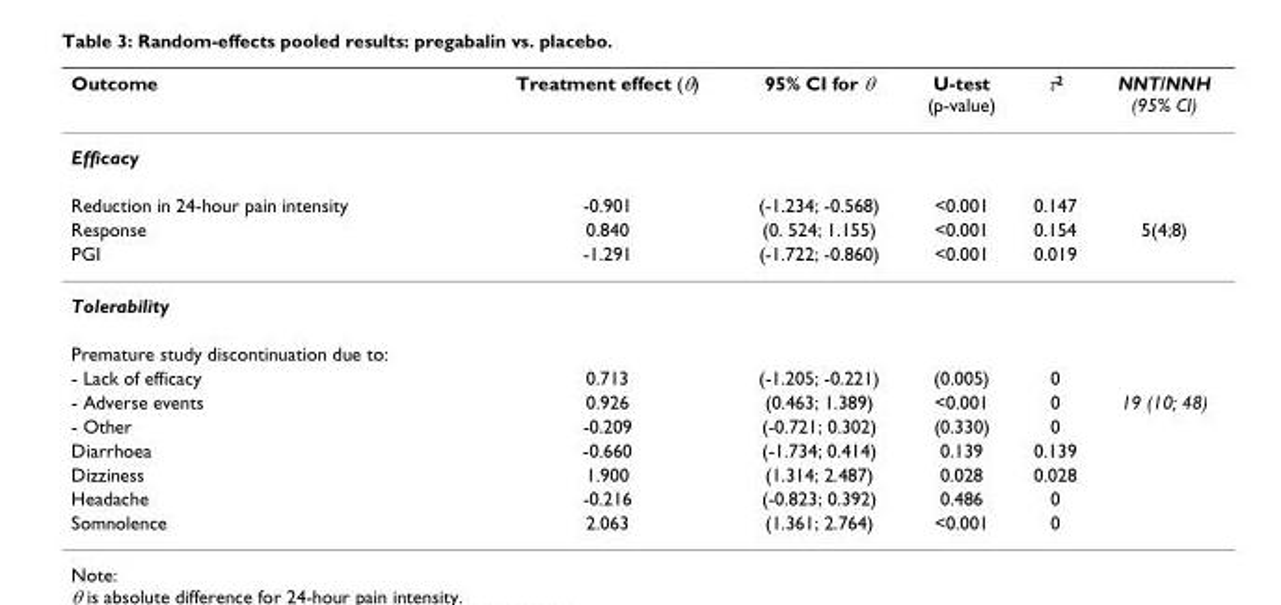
<table><thead><tr><td>Outcome</td><td>Treatment effect (θ)</td><td>95% CI for θ</td><td>U-test (p-value)</td><td>τ<sup>2</sup></td><td>NNT/NNH (95% CI)</td></tr></thead><tbody><tr><td colspan="6">Efficacy</td></tr><tr><td>Reduction in 24-hour pain intensity</td><td>-0.901</td><td>(-1.234; -0.568)</td><td>&lt;0.001</td><td>0.147</td><td></td></tr><tr><td>Response</td><td>0.840</td><td>(0. 524; 1.155)</td><td>&lt;0.001</td><td>0.154</td><td>5(4;8)</td></tr><tr><td>PGI</td><td>-1.291</td><td>(-1.722; -0.860)</td><td>&lt;0.001</td><td>0.019</td><td></td></tr><tr><td colspan="6">Tolerability</td></tr><tr><td colspan="6">Premature study discontinuation due to:</td></tr><tr><td>- Lack of efficacy</td><td>0.713</td><td>(-1.205; -0.221)</td><td>(0.005)</td><td>0</td><td></td></tr><tr><td>- Adverse events</td><td>0.926</td><td>(0.463; 1.389)</td><td>&lt;0.001</td><td>0</td><td>19 (10; 48)</td></tr><tr><td>- Other</td><td>-0.209</td><td>(-0.721; 0.302)</td><td>(0.330)</td><td>0</td><td></td></tr><tr><td>Diarrhoea</td><td>-0.660</td><td>(-1.734; 0.414)</td><td>0.139</td><td>0.139</td><td></td></tr><tr><td>Dizziness</td><td>1.900</td><td>(1.314; 2.487)</td><td>0.028</td><td>0.028</td><td></td></tr><tr><td>Headache</td><td>-0.216</td><td>(-0.823; 0.392)</td><td>0.486</td><td>0</td><td></td></tr><tr><td>Somnolence</td><td>2.063</td><td>(1.361; 2.764)</td><td>&lt;0.001</td><td>0</td><td></td></tr></tbody></table>